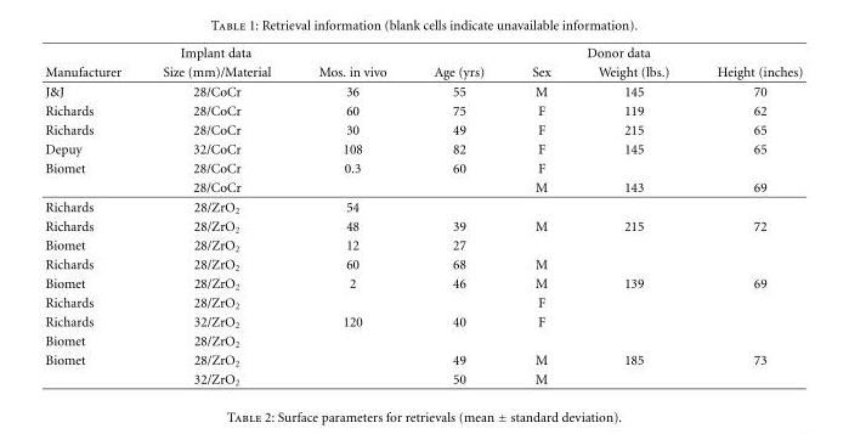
<table><thead><tr><td colspan="3">Implant data</td><td colspan="4">Donor data</td></tr><tr><td>Manufacturer</td><td>Size (mm)/Material</td><td>Mos. in vivo</td><td>Age (yrs)</td><td>Sex</td><td>Weight (lbs.)</td><td>Height (inches)</td></tr></thead><tbody><tr><td>J&amp;J</td><td>28/CoCr</td><td>36</td><td>55</td><td>M</td><td>145</td><td>70</td></tr><tr><td>Richards</td><td>28/CoCr</td><td>60</td><td>75</td><td>F</td><td>119</td><td>62</td></tr><tr><td>Richards</td><td>28/CoCr</td><td>30</td><td>49</td><td>F</td><td>215</td><td>65</td></tr><tr><td>Depuy</td><td>32/CoCr</td><td>108</td><td>82</td><td>F</td><td>145</td><td>65</td></tr><tr><td rowspan="2">Biomet</td><td>28/CoCr</td><td>0.3</td><td>60</td><td>F</td><td></td><td></td></tr><tr><td>28/CoCr</td><td></td><td></td><td>M</td><td>143</td><td>69</td></tr><tr><td>Richards</td><td>28/ZrO<sub>2</sub></td><td>54</td><td></td><td></td><td></td><td></td></tr><tr><td>Richards</td><td>28/ZrO<sub>2</sub></td><td>48</td><td>39</td><td>M</td><td>215</td><td>72</td></tr><tr><td>Biomet</td><td>28/ZrO<sub>2</sub></td><td>12</td><td>27</td><td></td><td></td><td></td></tr><tr><td>Richards</td><td>28/ZrO<sub>2</sub></td><td>60</td><td>68</td><td>M</td><td></td><td></td></tr><tr><td>Biomet</td><td>28/ZrO<sub>2</sub></td><td>2</td><td>46</td><td>M</td><td>139</td><td>69</td></tr><tr><td>Richards</td><td>28/ZrO<sub>2</sub></td><td></td><td></td><td>F</td><td></td><td></td></tr><tr><td>Richards</td><td>32/ZrO<sub>2</sub></td><td>120</td><td>40</td><td>F</td><td></td><td></td></tr><tr><td>Biomet</td><td>28/ZrO<sub>2</sub></td><td></td><td></td><td></td><td></td><td></td></tr><tr><td rowspan="2">Biomet</td><td>28/ZrO<sub>2</sub></td><td></td><td>49</td><td>M</td><td>185</td><td>73</td></tr><tr><td>32/ZrO<sub>2</sub></td><td></td><td>50</td><td>M</td><td></td><td></td></tr></tbody></table>